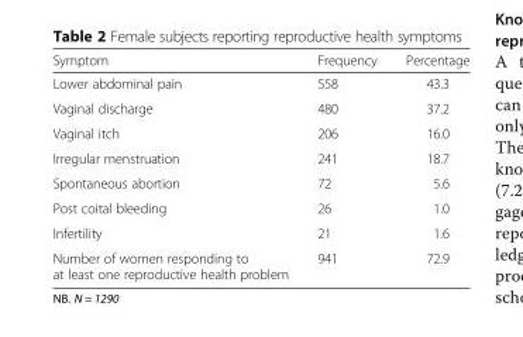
<table><thead><tr><td>Symptom</td><td>Frequency</td><td>Percentage</td></tr></thead><tbody><tr><td>Lower abdominal pain</td><td>558</td><td>43.3</td></tr><tr><td>Vaginal discharge</td><td>480</td><td>37.2</td></tr><tr><td>Vaginal itch</td><td>206</td><td>16.0</td></tr><tr><td>Irregular menstruation</td><td>241</td><td>18.7</td></tr><tr><td>Spontaneous abortion</td><td>72</td><td>5.6</td></tr><tr><td>Post coital bleeding</td><td>26</td><td>1.0</td></tr><tr><td>Infertility</td><td>21</td><td>1.6</td></tr><tr><td>Number of women responding to at least one reproductive health problem</td><td>941</td><td>72.9</td></tr></tbody></table>